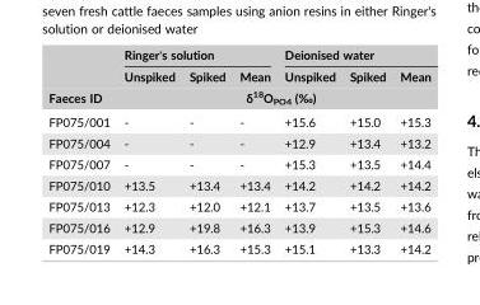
<table><thead><tr><td rowspan="3">Faeces ID</td><td colspan="3">Ringer&#x27;s solution</td><td colspan="3">Deionised water</td></tr><tr><td>Unspiked</td><td>Spiked</td><td>Mean</td><td>Unspiked</td><td>Spiked</td><td>Mean</td></tr><tr><td colspan="6">δ<sup>18</sup>O<sub>PO4</sub> (‰)</td></tr></thead><tbody><tr><td>FP075/001</td><td>‐</td><td>‐</td><td>‐</td><td>+15.6</td><td>+15.0</td><td>+15.3</td></tr><tr><td>FP075/004</td><td>‐</td><td>‐</td><td>‐</td><td>+12.9</td><td>+13.4</td><td>+13.2</td></tr><tr><td>FP075/007</td><td>‐</td><td>‐</td><td>‐</td><td>+15.3</td><td>+13.5</td><td>+14.4</td></tr><tr><td>FP075/010</td><td>+13.5</td><td>+13.4</td><td>+13.4</td><td>+14.2</td><td>+14.2</td><td>+14.2</td></tr><tr><td>FP075/013</td><td>+12.3</td><td>+12.0</td><td>+12.1</td><td>+13.7</td><td>+13.5</td><td>+13.6</td></tr><tr><td>FP075/016</td><td>+12.9</td><td>+19.8</td><td>+16.3</td><td>+13.9</td><td>+15.3</td><td>+14.6</td></tr><tr><td>FP075/019</td><td>+14.3</td><td>+16.3</td><td>+15.3</td><td>+15.1</td><td>+13.3</td><td>+14.2</td></tr></tbody></table>